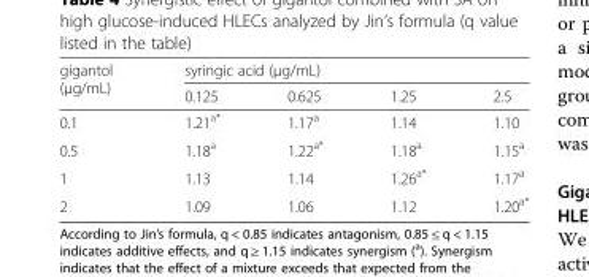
<table><thead><tr><td rowspan="2">gigantol (μg/mL)</td><td colspan="4">syringic acid (μg/mL)</td></tr><tr><td>0.125</td><td>0.625</td><td>1.25</td><td>2.5</td></tr></thead><tbody><tr><td>0.1</td><td>1.21<sup>a*</sup></td><td>1.17<sup>a</sup></td><td>1.14</td><td>1.10</td></tr><tr><td>0.5</td><td>1.18<sup>a</sup></td><td>1.22<sup>a*</sup></td><td>1.18<sup>a</sup></td><td>1.15<sup>a</sup></td></tr><tr><td>1</td><td>1.13</td><td>1.14</td><td>1.26<sup>a*</sup></td><td>1.17<sup>a</sup></td></tr><tr><td>2</td><td>1.09</td><td>1.06</td><td>1.12</td><td>1.20<sup>a*</sup></td></tr></tbody></table>